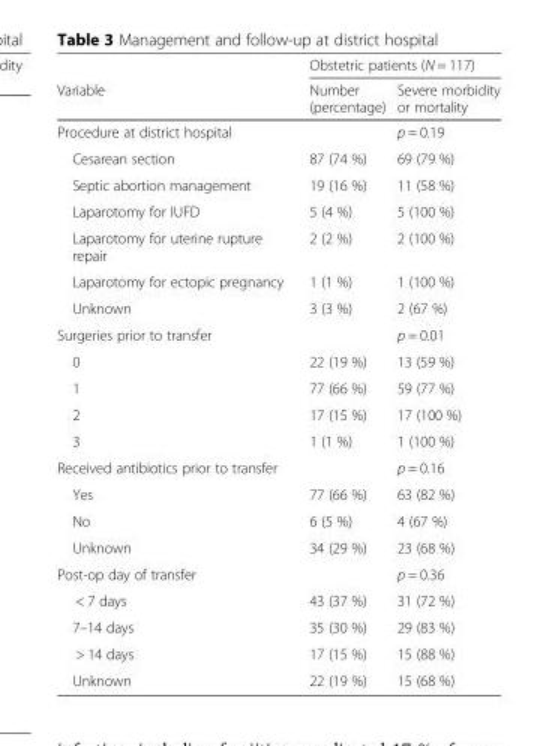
<table><thead><tr><td rowspan="2">Variable</td><td colspan="2">Obstetric patients (N = 117)</td></tr><tr><td>Number (percentage)</td><td>Severe morbidity or mortality</td></tr></thead><tbody><tr><td>Procedure at district hospital</td><td></td><td>p = 0.19</td></tr><tr><td>Cesarean section</td><td>87 (74 %)</td><td>69 (79 %)</td></tr><tr><td>Septic abortion management</td><td>19 (16 %)</td><td>11 (58 %)</td></tr><tr><td>Laparotomy for IUFD</td><td>5 (4 %)</td><td>5 (100 %)</td></tr><tr><td>Laparotomy for uterine rupture repair</td><td>2 (2 %)</td><td>2 (100 %)</td></tr><tr><td>Laparotomy for ectopic pregnancy</td><td>1 (1 %)</td><td>1 (100 %)</td></tr><tr><td>Unknown</td><td>3 (3 %)</td><td>2 (67 %)</td></tr><tr><td>Surgeries prior to transfer</td><td></td><td>p = 0.01</td></tr><tr><td>0</td><td>22 (19 %)</td><td>13 (59 %)</td></tr><tr><td>1</td><td>77 (66 %)</td><td>59 (77 %)</td></tr><tr><td>2</td><td>17 (15 %)</td><td>17 (100 %)</td></tr><tr><td>3</td><td>1 (1 %)</td><td>1 (100 %)</td></tr><tr><td>Received antibiotics prior to transfer</td><td></td><td>p = 0.16</td></tr><tr><td>Yes</td><td>77 (66 %)</td><td>63 (82 %)</td></tr><tr><td>No</td><td>6 (5 %)</td><td>4 (67 %)</td></tr><tr><td>Unknown</td><td>34 (29 %)</td><td>23 (68 %)</td></tr><tr><td>Post-op day of transfer</td><td></td><td>p = 0.36</td></tr><tr><td>&lt; 7 days</td><td>43 (37 %)</td><td>31 (72 %)</td></tr><tr><td>7–14 days</td><td>35 (30 %)</td><td>29 (83 %)</td></tr><tr><td>&gt; 14 days</td><td>17 (15 %)</td><td>15 (88 %)</td></tr><tr><td>Unknown</td><td>22 (19 %)</td><td>15 (68 %)</td></tr></tbody></table>